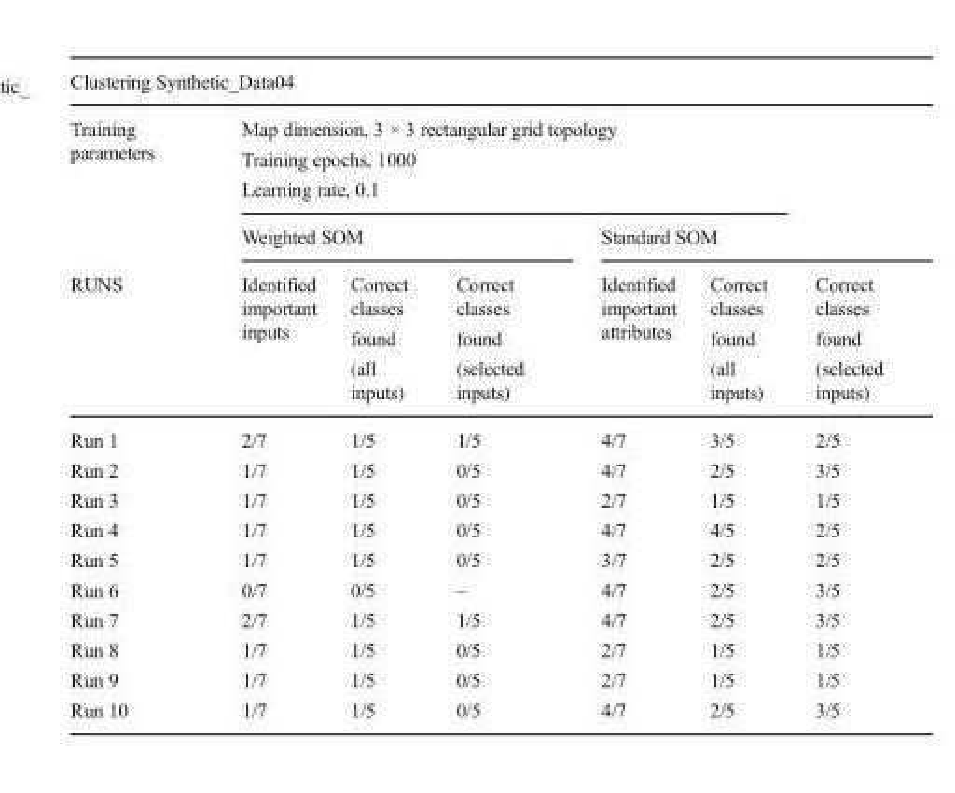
<table><thead><tr><td colspan="7">Clustering Synthetic_Data04</td></tr><tr><td rowspan="3">Training parameters RUNS</td><td colspan="5">Map dimension, 3 × 3 rectangular grid topology Training epochs, 1000 Learning rate, 0.1</td><td></td></tr><tr><td colspan="3">Weighted SOM</td><td colspan="3">Standard SOM</td></tr><tr><td>Identified important inputs</td><td>Correct classes found (all inputs)</td><td>Correct classes found (selected inputs)</td><td>Identified important attributes</td><td>Correct classes found (all inputs)</td><td>Correct classes found (selected inputs)</td></tr></thead><tbody><tr><td>Run 1</td><td>2/7</td><td>1/5</td><td>1/5</td><td>4/7</td><td>3/5</td><td>2/5</td></tr><tr><td>Run 2</td><td>1/7</td><td>1/5</td><td>0/5</td><td>4/7</td><td>2/5</td><td>3/5</td></tr><tr><td>Run 3</td><td>1/7</td><td>1/5</td><td>0/5</td><td>2/7</td><td>1/5</td><td>1/5</td></tr><tr><td>Run 4</td><td>1/7</td><td>1/5</td><td>0/5</td><td>4/7</td><td>4/5</td><td>2/5</td></tr><tr><td>Run 5</td><td>1/7</td><td>1/5</td><td>0/5</td><td>3/7</td><td>2/5</td><td>2/5</td></tr><tr><td>Run 6</td><td>0/7</td><td>0/5</td><td>–</td><td>4/7</td><td>2/5</td><td>3/5</td></tr><tr><td>Run 7</td><td>2/7</td><td>1/5</td><td>1/5</td><td>4/7</td><td>2/5</td><td>3/5</td></tr><tr><td>Run 8</td><td>1/7</td><td>1/5</td><td>0/5</td><td>2/7</td><td>1/5</td><td>1/5</td></tr><tr><td>Run 9</td><td>1/7</td><td>1/5</td><td>0/5</td><td>2/7</td><td>1/5</td><td>1/5</td></tr><tr><td>Run 10</td><td>1/7</td><td>1/5</td><td>0/5</td><td>4/7</td><td>2/5</td><td>3/5</td></tr></tbody></table>